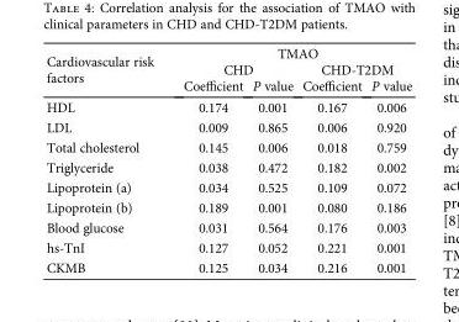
<table><thead><tr><td rowspan="3">Cardiovascular risk factors</td><td colspan="4">TMAO</td></tr><tr><td colspan="2">CHD</td><td colspan="2">CHD-T2DM</td></tr><tr><td>Coefficient</td><td>P value</td><td>Coefficient</td><td>P value</td></tr></thead><tbody><tr><td>HDL</td><td>0.174</td><td>0.001</td><td>0.167</td><td>0.006</td></tr><tr><td>LDL</td><td>0.009</td><td>0.865</td><td>0.006</td><td>0.920</td></tr><tr><td>Total cholesterol</td><td>0.145</td><td>0.006</td><td>0.018</td><td>0.759</td></tr><tr><td>Triglyceride</td><td>0.038</td><td>0.472</td><td>0.182</td><td>0.002</td></tr><tr><td>Lipoprotein (a)</td><td>0.034</td><td>0.525</td><td>0.109</td><td>0.072</td></tr><tr><td>Lipoprotein (b)</td><td>0.189</td><td>0.001</td><td>0.080</td><td>0.186</td></tr><tr><td>Blood glucose</td><td>0.031</td><td>0.564</td><td>0.176</td><td>0.003</td></tr><tr><td>hs-TnI</td><td>0.127</td><td>0.052</td><td>0.221</td><td>0.001</td></tr><tr><td>CKMB</td><td>0.125</td><td>0.034</td><td>0.216</td><td>0.001</td></tr></tbody></table>